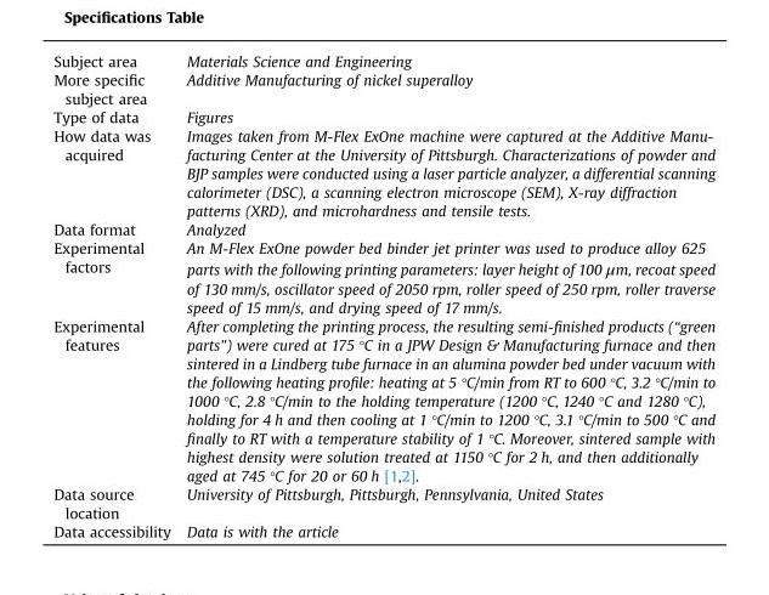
<table><tbody><tr><td>Subject area</td><td>Materials Science and Engineering</td></tr><tr><td>More specific subject area</td><td>Additive Manufacturing of nickel superalloy</td></tr><tr><td>Type of data</td><td>Figures</td></tr><tr><td>How data was acquired</td><td>Images taken from M-Flex ExOne machine were captured at the Additive Manu- facturing Center at the University of Pittsburgh. Characterizations of powder and BJP samples were conducted using a laser particle analyzer, a differential scanning calorimeter (DSC), a scanning electron microscope (SEM), X-ray diffraction patterns (XRD), and microhardness and tensile tests.</td></tr><tr><td>Data format</td><td>Analyzed</td></tr><tr><td>Experimental factors</td><td>An M-Flex ExOne powder bed binder jet printer was used to produce alloy 625 parts with the following printing parameters: layer height of 100 μm, recoat speed of 130 mm/s, oscillator speed of 2050 rpm, roller speed of 250 rpm, roller traverse speed of 15 mm/s, and drying speed of 17 mm/s.</td></tr><tr><td>Experimental features</td><td>After completing the printing process, the resulting semi-finished products (“green parts”) were cured at 175 °C in a JPW Design &amp; Manufacturing furnace and then sintered in a Lindberg tube furnace in an alumina powder bed under vacuum with the following heating profile: heating at 5 °C/min from RT to 600 °C, 3.2 °C/min to 1000 °C, 2.8 °C/min to the holding temperature (1200 °C, 1240 °C and 1280 °C), holding for 4 h and then cooling at 1 °C/min to 1200 °C, 3.1 °C/min to 500 °C and finally to RT with a temperature stability of 1 °C. Moreover, sintered sample with highest density were solution treated at 1150 °C for 2 h, and then additionally aged at 745 °C for 20 or 60 h [1,2].</td></tr><tr><td>Data source location</td><td>University of Pittsburgh, Pittsburgh, Pennsylvania, United States</td></tr><tr><td>Data accessibility</td><td>Data is with the article</td></tr></tbody></table>